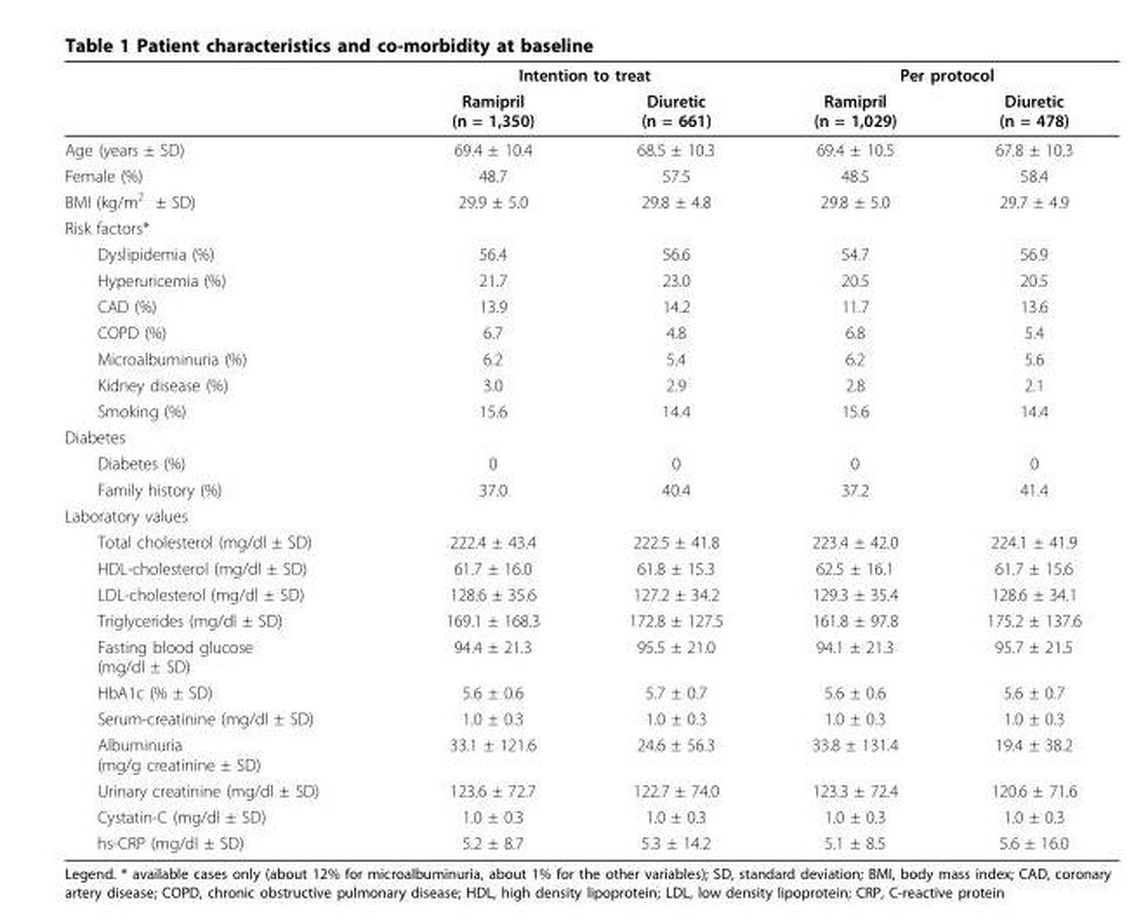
<table><thead><tr><td rowspan="2"></td><td colspan="2">Intention to treat</td><td colspan="2">Per protocol</td></tr><tr><td>Ramipril (n = 1,350)</td><td>Diuretic (n = 661)</td><td>Ramipril (n = 1,029)</td><td>Diuretic (n = 478)</td></tr></thead><tbody><tr><td>Age (years ± SD)</td><td>69.4 ± 10.4</td><td>68.5 ± 10.3</td><td>69.4 ± 10.5</td><td>67.8 ± 10.3</td></tr><tr><td>Female (%)</td><td>48.7</td><td>57.5</td><td>48.5</td><td>58.4</td></tr><tr><td>BMI (kg/m<sup>2</sup> ± SD)</td><td>29.9 ± 5.0</td><td>29.8 ± 4.8</td><td>29.8 ± 5.0</td><td>29.7 ± 4.9</td></tr><tr><td colspan="5">Risk factors*</td></tr><tr><td>Dyslipidemia (%)</td><td>56.4</td><td>56.6</td><td>54.7</td><td>56.9</td></tr><tr><td>Hyperuricemia (%)</td><td>21.7</td><td>23.0</td><td>20.5</td><td>20.5</td></tr><tr><td>CAD (%)</td><td>13.9</td><td>14.2</td><td>11.7</td><td>13.6</td></tr><tr><td>COPD (%)</td><td>6.7</td><td>4.8</td><td>6.8</td><td>5.4</td></tr><tr><td>Microalbuminuria (%)</td><td>6.2</td><td>5.4</td><td>6.2</td><td>5.6</td></tr><tr><td>Kidney disease (%)</td><td>3.0</td><td>2.9</td><td>2.8</td><td>2.1</td></tr><tr><td>Smoking (%)</td><td>15.6</td><td>14.4</td><td>15.6</td><td>14.4</td></tr><tr><td colspan="5">Diabetes</td></tr><tr><td>Diabetes (%)</td><td>0</td><td>0</td><td>0</td><td>0</td></tr><tr><td>Family history (%)</td><td>37.0</td><td>40.4</td><td>37.2</td><td>41.4</td></tr><tr><td colspan="5">Laboratory values</td></tr><tr><td>Total cholesterol (mg/dl ± SD)</td><td>222.4 ± 43.4</td><td>222.5 ± 41.8</td><td>223.4 ± 42.0</td><td>224.1 ± 41.9</td></tr><tr><td>HDL-cholesterol (mg/dl ± SD)</td><td>61.7 ± 16.0</td><td>61.8 ± 15.3</td><td>62.5 ± 16.1</td><td>61.7 ± 15.6</td></tr><tr><td>LDL-cholesterol (mg/dl ± SD)</td><td>128.6 ± 35.6</td><td>127.2 ± 34.2</td><td>129.3 ± 35.4</td><td>128.6 ± 34.1</td></tr><tr><td>Triglycerides (mg/dl ± SD)</td><td>169.1 ± 168.3</td><td>172.8 ± 127.5</td><td>161.8 ± 97.8</td><td>175.2 ± 137.6</td></tr><tr><td>Fasting blood glucose (mg/dl ± SD)</td><td>94.4 ± 21.3</td><td>95.5 ± 21.0</td><td>94.1 ± 21.3</td><td>95.7 ± 21.5</td></tr><tr><td>HbA1c (% ± SD)</td><td>5.6 ± 0.6</td><td>5.7 ± 0.7</td><td>5.6 ± 0.6</td><td>5.6 ± 0.7</td></tr><tr><td>Serum-creatinine (mg/dl ± SD)</td><td>1.0 ± 0.3</td><td>1.0 ± 0.3</td><td>1.0 ± 0.3</td><td>1.0 ± 0.3</td></tr><tr><td>Albuminuria (mg/g creatinine ± SD)</td><td>33.1 ± 121.6</td><td>24.6 ± 56.3</td><td>33.8 ± 131.4</td><td>19.4 ± 38.2</td></tr><tr><td>Urinary creatinine (mg/dl ± SD)</td><td>123.6 ± 72.7</td><td>122.7 ± 74.0</td><td>123.3 ± 72.4</td><td>120.6 ± 71.6</td></tr><tr><td>Cystatin-C (mg/dl ± SD)</td><td>1.0 ± 0.3</td><td>1.0 ± 0.3</td><td>1.0 ± 0.3</td><td>1.0 ± 0.3</td></tr><tr><td>hs-CRP (mg/dl ± SD)</td><td>5.2 ± 8.7</td><td>5.3 ± 14.2</td><td>5.1 ± 8.5</td><td>5.6 ± 16.0</td></tr></tbody></table>